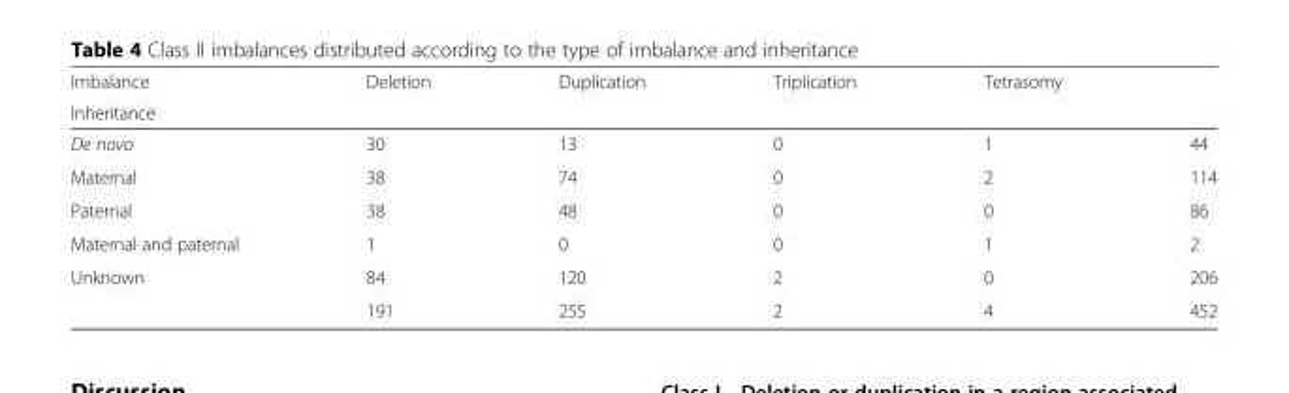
<table><thead><tr><td rowspan="2">Imbalance Inheritance</td><td rowspan="2">Deletion</td><td rowspan="2">Duplication</td><td rowspan="2">Triplication</td><td rowspan="2">Tetrasomy</td><td rowspan="2"></td></tr><tr></tr></thead><tbody><tr><td>De novo</td><td>30</td><td>13</td><td>0</td><td>1</td><td>44</td></tr><tr><td>Maternal</td><td>38</td><td>74</td><td>0</td><td>2</td><td>114</td></tr><tr><td>Paternal</td><td>38</td><td>48</td><td>0</td><td>0</td><td>86</td></tr><tr><td>Maternal and paternal</td><td>1</td><td>0</td><td>0</td><td>1</td><td>2</td></tr><tr><td rowspan="2">Unknown</td><td>84</td><td>120</td><td>2</td><td>0</td><td>206</td></tr><tr><td>191</td><td>255</td><td>2</td><td>4</td><td>452</td></tr></tbody></table>